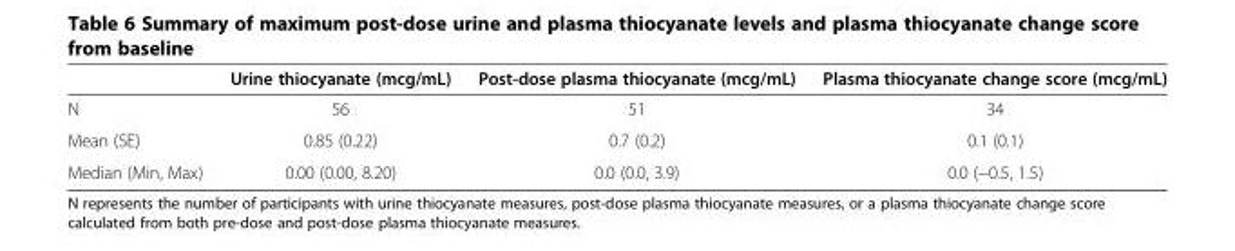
<table><thead><tr><td></td><td>Urine thiocyanate (mcg/mL)</td><td>Post-dose plasma thiocyanate (mcg/mL)</td><td>Plasma thiocyanate change score (mcg/mL)</td></tr></thead><tbody><tr><td>N</td><td>56</td><td>51</td><td>34</td></tr><tr><td>Mean (SE)</td><td>0.85 (0.22)</td><td>0.7 (0.2)</td><td>0.1 (0.1)</td></tr><tr><td>Median (Min, Max)</td><td>0.00 (0.00, 8.20)</td><td>0.0 (0.0, 3.9)</td><td>0.0 (−0.5, 1.5)</td></tr></tbody></table>